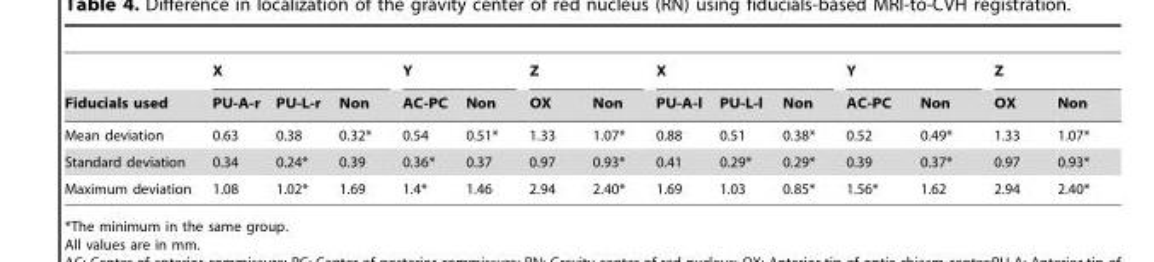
<table><thead><tr><td rowspan="2">Fiducials used</td><td colspan="3">X</td><td colspan="2">Y</td><td colspan="2">Z</td><td colspan="3">X</td><td colspan="2">Y</td><td colspan="2">Z</td></tr><tr><td>PU-A-r</td><td>PU-L-r</td><td>Non</td><td>AC-PC</td><td>Non</td><td>OX</td><td>Non</td><td>PU-A-l</td><td>PU-L-l</td><td>Non</td><td>AC-PC</td><td>Non</td><td>OX</td><td>Non</td></tr></thead><tbody><tr><td>Mean deviation</td><td>0.63</td><td>0.38</td><td>0.32*</td><td>0.54</td><td>0.51*</td><td>1.33</td><td>1.07*</td><td>0.88</td><td>0.51</td><td>0.38*</td><td>0.52</td><td>0.49*</td><td>1.33</td><td>1.07*</td></tr><tr><td>Standard deviation</td><td>0.34</td><td>0.24*</td><td>0.39</td><td>0.36*</td><td>0.37</td><td>0.97</td><td>0.93*</td><td>0.41</td><td>0.29*</td><td>0.29*</td><td>0.39</td><td>0.37*</td><td>0.97</td><td>0.93*</td></tr><tr><td>Maximum deviation</td><td>1.08</td><td>1.02*</td><td>1.69</td><td>1.4*</td><td>1.46</td><td>2.94</td><td>2.40*</td><td>1.69</td><td>1.03</td><td>0.85*</td><td>1.56*</td><td>1.62</td><td>2.94</td><td>2.40*</td></tr></tbody></table>